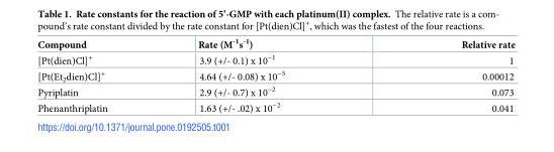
<table><thead><tr><td>Compound</td><td>Rate (M<sup>-1</sup>s<sup>-1</sup>)</td><td>Relative rate</td></tr></thead><tbody><tr><td>[Pt(dien)Cl]<sup>+</sup></td><td>3.9 (+/- 0.1) x 10<sup>−1</sup></td><td>1</td></tr><tr><td>[Pt(Et<sub>2</sub>dien)Cl]<sup>+</sup></td><td>4.64 (+/- 0.08) x 10<sup>−5</sup></td><td>0.00012</td></tr><tr><td>Pyriplatin</td><td>2.9 (+/- 0.7) x 10<sup>−2</sup></td><td>0.073</td></tr><tr><td>Phenanthriplatin</td><td>1.63 (+/- .02) x 10<sup>−2</sup></td><td>0.041</td></tr></tbody></table>